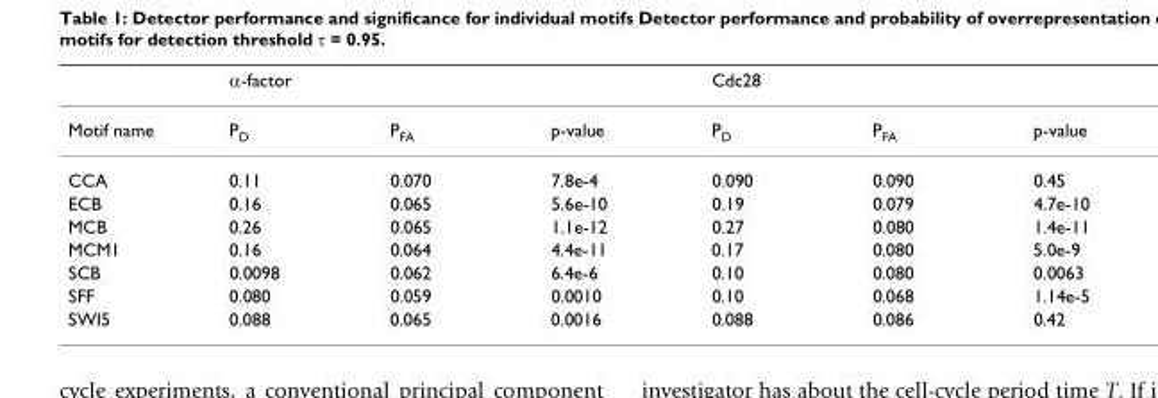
<table><thead><tr><td rowspan="2">Motif name</td><td colspan="3">α-factor</td><td colspan="3">Cdc28</td></tr><tr><td>P<sub>D</sub></td><td>P<sub>FA</sub></td><td>p-value</td><td>P<sub>D</sub></td><td>P<sub>FA</sub></td><td>p-value</td></tr></thead><tbody><tr><td>CCA</td><td>0.11</td><td>0.070</td><td>7.8e-4</td><td>0.090</td><td>0.090</td><td>0.45</td></tr><tr><td>ECB</td><td>0.16</td><td>0.065</td><td>5.6e-10</td><td>0.19</td><td>0.079</td><td>4.7e-10</td></tr><tr><td>MCB</td><td>0.26</td><td>0.065</td><td>1.1e-12</td><td>0.27</td><td>0.080</td><td>1.4e-11</td></tr><tr><td>MCM1</td><td>0.16</td><td>0.064</td><td>4.4e-11</td><td>0.17</td><td>0.080</td><td>5.0e-9</td></tr><tr><td>SCB</td><td>0.0098</td><td>0.062</td><td>6.4e-6</td><td>0.10</td><td>0.080</td><td>0.0063</td></tr><tr><td>SFF</td><td>0.080</td><td>0.059</td><td>0.0010</td><td>0.10</td><td>0.068</td><td>1.14e-5</td></tr><tr><td>SWI5</td><td>0.088</td><td>0.065</td><td>0.0016</td><td>0.088</td><td>0.086</td><td>0.42</td></tr></tbody></table>